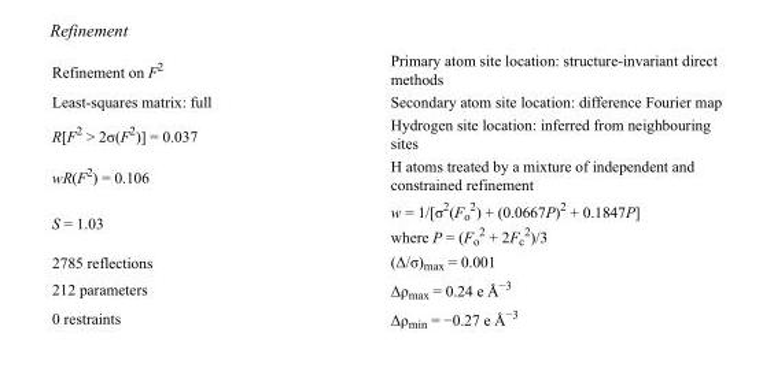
<table><tbody><tr><td>Refinement on F<sup>2</sup></td><td>Primary atom site location: structure-invariant direct methods</td></tr><tr><td>Least-squares matrix: full</td><td>Secondary atom site location: difference Fourier map</td></tr><tr><td>R[F<sup>2</sup> &gt; 2σ(F<sup>2</sup>)] = 0.037</td><td>Hydrogen site location: inferred from neighbouring sites</td></tr><tr><td>wR(F<sup>2</sup>) = 0.106</td><td>H atoms treated by a mixture of independent and constrained refinement</td></tr><tr><td>S = 1.03</td><td>w = 1/[σ<sup>2</sup>(F<sub>o</sub> <sup>2</sup>) + (0.0667P)<sup>2</sup> + 0.1847P] where P = (F<sub>o</sub> <sup>2</sup> + 2F<sub>c</sub> <sup>2</sup>)/3</td></tr><tr><td>2785 reflections</td><td>(Δ/σ)<sub>max</sub> = 0.001</td></tr><tr><td>212 parameters</td><td>Δρ<sub>max</sub> = 0.24 e Å<sup>−3</sup></td></tr><tr><td>0 restraints</td><td>Δρ<sub>min</sub> = −0.27 e Å<sup>−3</sup></td></tr></tbody></table>